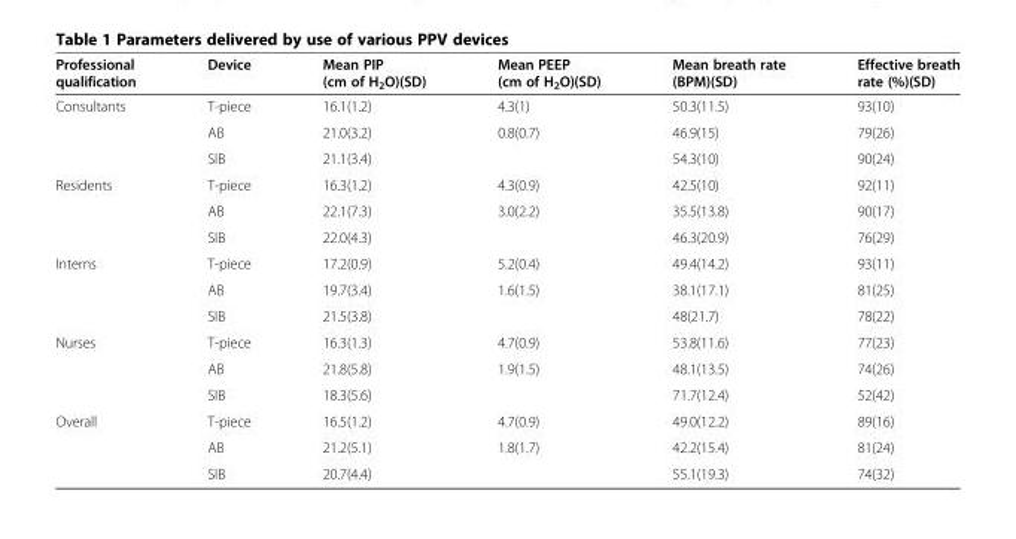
<table><thead><tr><td>Professional qualification</td><td>Device</td><td>Mean PIP (cm of H<sub>2</sub>O)(SD)</td><td>Mean PEEP (cm of H<sub>2</sub>O)(SD)</td><td>Mean breath rate (BPM)(SD)</td><td>Effective breath rate (%)(SD)</td></tr></thead><tbody><tr><td rowspan="3">Consultants</td><td>T-piece</td><td>16.1(1.2)</td><td>4.3(1)</td><td>50.3(11.5)</td><td>93(10)</td></tr><tr><td>AB</td><td>21.0(3.2)</td><td>0.8(0.7)</td><td>46.9(15)</td><td>79(26)</td></tr><tr><td>SIB</td><td>21.1(3.4)</td><td></td><td>54.3(10)</td><td>90(24)</td></tr><tr><td rowspan="3">Residents</td><td>T-piece</td><td>16.3(1.2)</td><td>4.3(0.9)</td><td>42.5(10)</td><td>92(11)</td></tr><tr><td>AB</td><td>22.1(7.3)</td><td>3.0(2.2)</td><td>35.5(13.8)</td><td>90(17)</td></tr><tr><td>SIB</td><td>22.0(4.3)</td><td></td><td>46.3(20.9)</td><td>76(29)</td></tr><tr><td rowspan="3">Interns</td><td>T-piece</td><td>17.2(0.9)</td><td>5.2(0.4)</td><td>49.4(14.2)</td><td>93(11)</td></tr><tr><td>AB</td><td>19.7(3.4)</td><td>1.6(1.5)</td><td>38.1(17.1)</td><td>81(25)</td></tr><tr><td>SIB</td><td>21.5(3.8)</td><td></td><td>48(21.7)</td><td>78(22)</td></tr><tr><td rowspan="3">Nurses</td><td>T-piece</td><td>16.3(1.3)</td><td>4.7(0.9)</td><td>53.8(11.6)</td><td>77(23)</td></tr><tr><td>AB</td><td>21.8(5.8)</td><td>1.9(1.5)</td><td>48.1(13.5)</td><td>74(26)</td></tr><tr><td>SIB</td><td>18.3(5.6)</td><td></td><td>71.7(12.4)</td><td>52(42)</td></tr><tr><td rowspan="3">Overall</td><td>T-piece</td><td>16.5(1.2)</td><td>4.7(0.9)</td><td>49.0(12.2)</td><td>89(16)</td></tr><tr><td>AB</td><td>21.2(5.1)</td><td>1.8(1.7)</td><td>42.2(15.4)</td><td>81(24)</td></tr><tr><td>SIB</td><td>20.7(4.4)</td><td></td><td>55.1(19.3)</td><td>74(32)</td></tr></tbody></table>